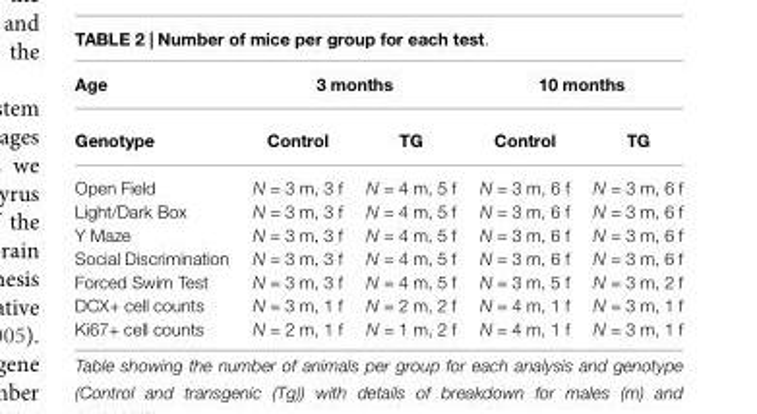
<table><thead><tr><td rowspan="2">Age Genotype</td><td colspan="2">3 months</td><td colspan="2">10 months</td></tr><tr><td>Control</td><td>TG</td><td>Control</td><td>TG</td></tr></thead><tbody><tr><td>Open Field</td><td>N = 3 m, 3 f</td><td>N = 4 m, 5 f</td><td>N = 3 m, 6 f</td><td>N = 3 m, 6 f</td></tr><tr><td>Light/Dark Box</td><td>N = 3 m, 3 f</td><td>N = 4 m, 5 f</td><td>N = 3 m, 6 f</td><td>N = 3 m, 6 f</td></tr><tr><td>Y Maze</td><td>N = 3 m, 3 f</td><td>N = 4 m, 5 f</td><td>N = 3 m, 6 f</td><td>N = 3 m, 6 f</td></tr><tr><td>Social Discrimination</td><td>N = 3 m, 3 f</td><td>N = 4 m, 5 f</td><td>N = 3 m, 6 f</td><td>N = 3 m, 6 f</td></tr><tr><td>Forced Swim Test</td><td>N = 3 m, 3 f</td><td>N = 4 m, 5 f</td><td>N = 3 m, 5 f</td><td>N = 3 m, 2 f</td></tr><tr><td>DCX+ cell counts</td><td>N = 3 m, 1 f</td><td>N = 2 m, 2 f</td><td>N = 4 m, 1 f</td><td>N = 3 m, 1 f</td></tr><tr><td>Ki67+ cell counts</td><td>N = 2 m, 1 f</td><td>N = 1 m, 2 f</td><td>N = 4 m, 1 f</td><td>N = 3 m, 1 f</td></tr></tbody></table>